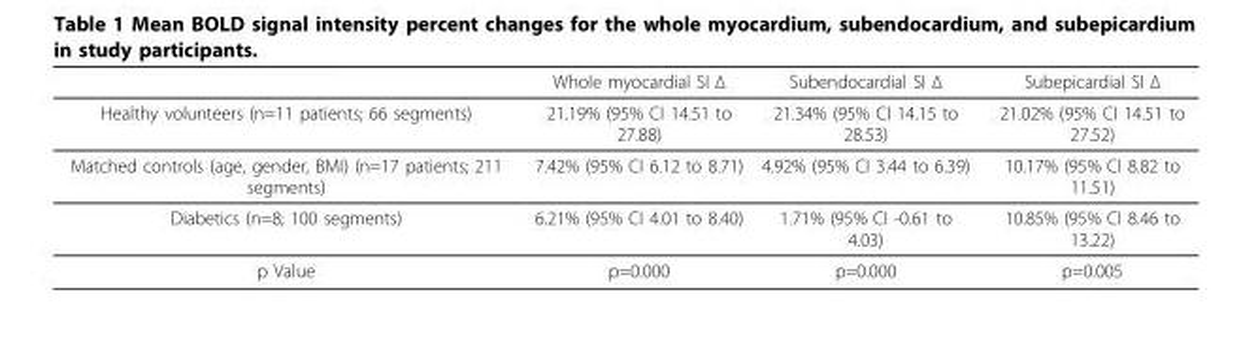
<table><thead><tr><td></td><td>Whole myocardial SI Δ</td><td>Subendocardial SI Δ</td><td>Subepicardial SI Δ</td></tr></thead><tbody><tr><td>Healthy volunteers (n=11 patients; 66 segments)</td><td>21.19% (95% CI 14.51 to 27.88)</td><td>21.34% (95% CI 14.15 to 28.53)</td><td>21.02% (95% CI 14.51 to 27.52)</td></tr><tr><td>Matched controls (age, gender, BMI) (n=17 patients; 211 segments)</td><td>7.42% (95% CI 6.12 to 8.71)</td><td>4.92% (95% CI 3.44 to 6.39)</td><td>10.17% (95% CI 8.82 to 11.51)</td></tr><tr><td>Diabetics (n=8; 100 segments)</td><td>6.21% (95% CI 4.01 to 8.40)</td><td>1.71% (95% CI -0.61 to 4.03)</td><td>10.85% (95% CI 8.46 to 13.22)</td></tr><tr><td>p Value</td><td>p=0.000</td><td>p=0.000</td><td>p=0.005</td></tr></tbody></table>